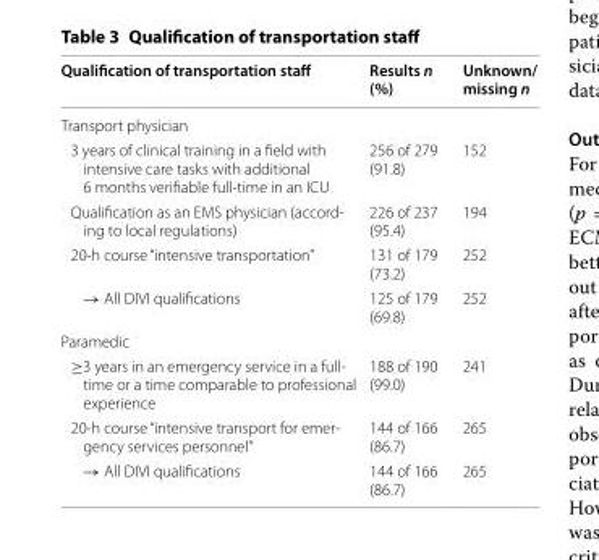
<table><thead><tr><td>Qualification of transportation staff</td><td>Results n (%)</td><td>Unknown/ missing n</td></tr></thead><tbody><tr><td colspan="3">Transport physician</td></tr><tr><td>3 years of clinical training in a field with intensive care tasks with additional 6 months verifiable full‑time in an ICU</td><td>256 of 279 (91.8)</td><td>152</td></tr><tr><td>Qualification as an EMS physician (accord‑ ing to local regulations)</td><td>226 of 237 (95.4)</td><td>194</td></tr><tr><td>20‑h course “intensive transportation”</td><td>131 of 179 (73.2)</td><td>252</td></tr><tr><td>→ All DIVI qualifications</td><td>125 of 179 (69.8)</td><td>252</td></tr><tr><td colspan="3">Paramedic</td></tr><tr><td>≥3 years in an emergency service in a full‑ time or a time comparable to professional experience</td><td>188 of 190 (99.0)</td><td>241</td></tr><tr><td>20‑h course “intensive transport for emer‑ gency services personnel”</td><td>144 of 166 (86.7)</td><td>265</td></tr><tr><td>→ All DIVI qualifications</td><td>144 of 166 (86.7)</td><td>265</td></tr></tbody></table>